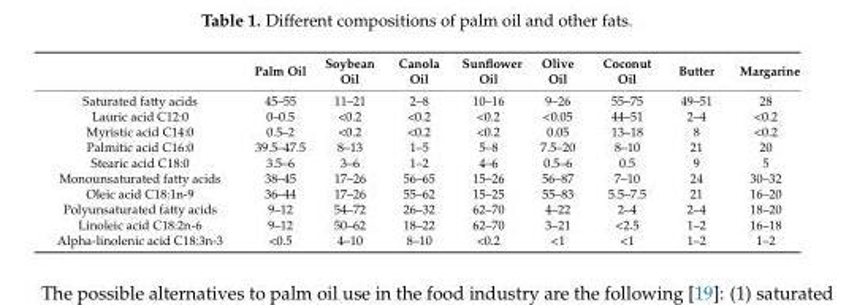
<table><thead><tr><td></td><td>Palm Oil</td><td>Soybean Oil</td><td>Canola Oil</td><td>Sunflower Oil</td><td>Olive Oil</td><td>Coconut Oil</td><td>Butter</td><td>Margarine</td></tr></thead><tbody><tr><td>Saturated fatty acids</td><td>45–55</td><td>11–21</td><td>2–8</td><td>10–16</td><td>9–26</td><td>55–75</td><td>49–51</td><td>28</td></tr><tr><td>Lauric acid C12:0</td><td>0–0.5</td><td>&lt;0.2</td><td>&lt;0.2</td><td>&lt;0.2</td><td>&lt;0.05</td><td>44–51</td><td>2–4</td><td>&lt;0.2</td></tr><tr><td>Myristic acid C14:0</td><td>0.5–2</td><td>&lt;0.2</td><td>&lt;0.2</td><td>&lt;0.2</td><td>0.05</td><td>13–18</td><td>8</td><td>&lt;0.2</td></tr><tr><td>Palmitic acid C16:0</td><td>39.5–47.5</td><td>8–13</td><td>1–5</td><td>5–8</td><td>7.5–20</td><td>8–10</td><td>21</td><td>20</td></tr><tr><td>Stearic acid C18:0</td><td>3.5–6</td><td>3–6</td><td>1–2</td><td>4–6</td><td>0.5–6</td><td>0.5</td><td>9</td><td>5</td></tr><tr><td>Monounsaturated fatty acids</td><td>38–45</td><td>17–26</td><td>56–65</td><td>15–26</td><td>56–87</td><td>7–10</td><td>24</td><td>30–32</td></tr><tr><td>Oleic acid C18:1n-9</td><td>36–44</td><td>17–26</td><td>55–62</td><td>15–25</td><td>55–83</td><td>5.5–7.5</td><td>21</td><td>16–20</td></tr><tr><td>Polyunsaturated fatty acids</td><td>9–12</td><td>54–72</td><td>26–32</td><td>62–70</td><td>4–22</td><td>2–4</td><td>2–4</td><td>18–20</td></tr><tr><td>Linoleic acid C18:2n-6</td><td>9–12</td><td>50–62</td><td>18–22</td><td>62–70</td><td>3–21</td><td>&lt;2.5</td><td>1–2</td><td>16–18</td></tr><tr><td>Alpha-linolenic acid C18:3n-3</td><td>&lt;0.5</td><td>4–10</td><td>8–10</td><td>&lt;0.2</td><td>&lt;1</td><td>&lt;1</td><td>1–2</td><td>1–2</td></tr></tbody></table>